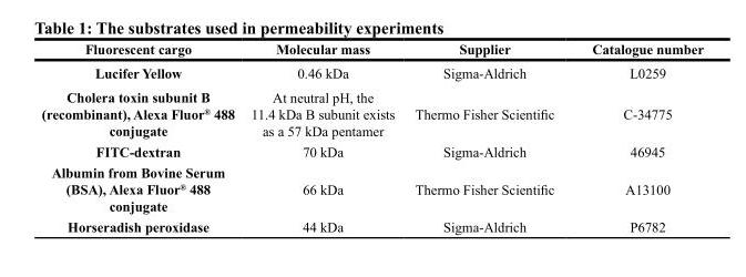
<table><thead><tr><td>Fluorescent cargo</td><td>Molecular mass</td><td>Supplier</td><td>Catalogue number</td></tr></thead><tbody><tr><td>Lucifer Yellow</td><td>0.46 kDa</td><td>Sigma-Aldrich</td><td>L0259</td></tr><tr><td>Cholera toxin subunit B (recombinant), Alexa Fluor<sup>®</sup> 488 conjugate</td><td>At neutral pH, the 11.4 kDa B subunit exists as a 57 kDa pentamer</td><td>Thermo Fisher Scientific</td><td>C-34775</td></tr><tr><td>FITC-dextran</td><td>70 kDa</td><td>Sigma-Aldrich</td><td>46945</td></tr><tr><td>Albumin from Bovine Serum (BSA), Alexa Fluor<sup>®</sup> 488 conjugate</td><td>66 kDa</td><td>Thermo Fisher Scientific</td><td>A13100</td></tr><tr><td>Horseradish peroxidase</td><td>44 kDa</td><td>Sigma-Aldrich</td><td>P6782</td></tr></tbody></table>